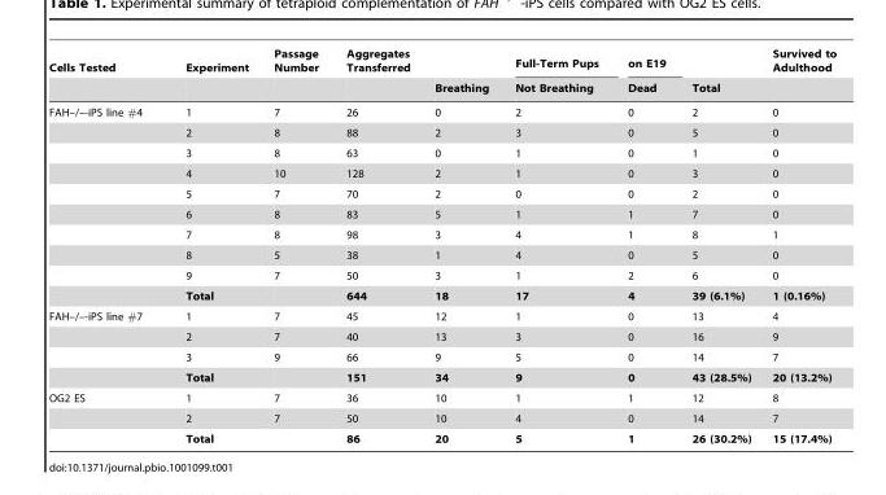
<table><thead><tr><td rowspan="2">Cells Tested</td><td rowspan="2">Experiment</td><td rowspan="2">Passage Number</td><td rowspan="2">Aggregates Transferred</td><td rowspan="2">Breathing</td><td rowspan="2">Full-Term Pups Not Breathing</td><td rowspan="2">on E19 Dead</td><td rowspan="2">Total</td><td rowspan="2">Survived to Adulthood</td></tr><tr></tr></thead><tbody><tr><td rowspan="10">FAH–/–-iPS line #4</td><td>1</td><td>7</td><td>26</td><td>0</td><td>2</td><td>0</td><td>2</td><td>0</td></tr><tr><td>2</td><td>8</td><td>88</td><td>2</td><td>3</td><td>0</td><td>5</td><td>0</td></tr><tr><td>3</td><td>8</td><td>63</td><td>0</td><td>1</td><td>0</td><td>1</td><td>0</td></tr><tr><td>4</td><td>10</td><td>128</td><td>2</td><td>1</td><td>0</td><td>3</td><td>0</td></tr><tr><td>5</td><td>7</td><td>70</td><td>2</td><td>0</td><td>0</td><td>2</td><td>0</td></tr><tr><td>6</td><td>8</td><td>83</td><td>5</td><td>1</td><td>1</td><td>7</td><td>0</td></tr><tr><td>7</td><td>8</td><td>98</td><td>3</td><td>4</td><td>1</td><td>8</td><td>1</td></tr><tr><td>8</td><td>5</td><td>38</td><td>1</td><td>4</td><td>0</td><td>5</td><td>0</td></tr><tr><td>9</td><td>7</td><td>50</td><td>3</td><td>1</td><td>2</td><td>6</td><td>0</td></tr><tr><td>Total</td><td></td><td>644</td><td>18</td><td>17</td><td>4</td><td>39 (6.1%)</td><td>1 (0.16%)</td></tr><tr><td rowspan="4">FAH–/–-iPS line #7</td><td>1</td><td>7</td><td>45</td><td>12</td><td>1</td><td>0</td><td>13</td><td>4</td></tr><tr><td>2</td><td>7</td><td>40</td><td>13</td><td>3</td><td>0</td><td>16</td><td>9</td></tr><tr><td>3</td><td>9</td><td>66</td><td>9</td><td>5</td><td>0</td><td>14</td><td>7</td></tr><tr><td>Total</td><td></td><td>151</td><td>34</td><td>9</td><td>0</td><td>43 (28.5%)</td><td>20 (13.2%)</td></tr><tr><td rowspan="3">OG2 ES</td><td>1</td><td>7</td><td>36</td><td>10</td><td>1</td><td>1</td><td>12</td><td>8</td></tr><tr><td>2</td><td>7</td><td>50</td><td>10</td><td>4</td><td>0</td><td>14</td><td>7</td></tr><tr><td>Total</td><td></td><td>86</td><td>20</td><td>5</td><td>1</td><td>26 (30.2%)</td><td>15 (17.4%)</td></tr></tbody></table>